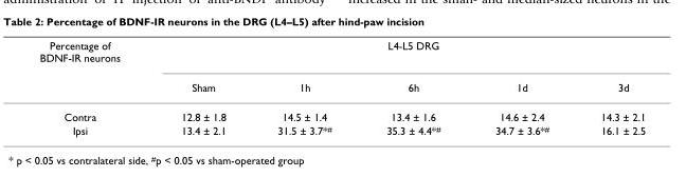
<table><thead><tr><td rowspan="2">Percentage of BDNF-IR neurons</td><td colspan="5">L4-L5 DRG</td></tr><tr><td>Sham</td><td>1h</td><td>6h</td><td>1d</td><td>3d</td></tr></thead><tbody><tr><td>Contra</td><td>12.8 ± 1.8</td><td>14.5 ± 1.4</td><td>13.4 ± 1.6</td><td>14.6 ± 2.4</td><td>14.3 ± 2.1</td></tr><tr><td>Ipsi</td><td>13.4 ± 2.1</td><td>31.5 ± 3.7*<sup>#</sup></td><td>35.3 ± 4.4*<sup>#</sup></td><td>34.7 ± 3.6*<sup>#</sup></td><td>16.1 ± 2.5</td></tr></tbody></table>